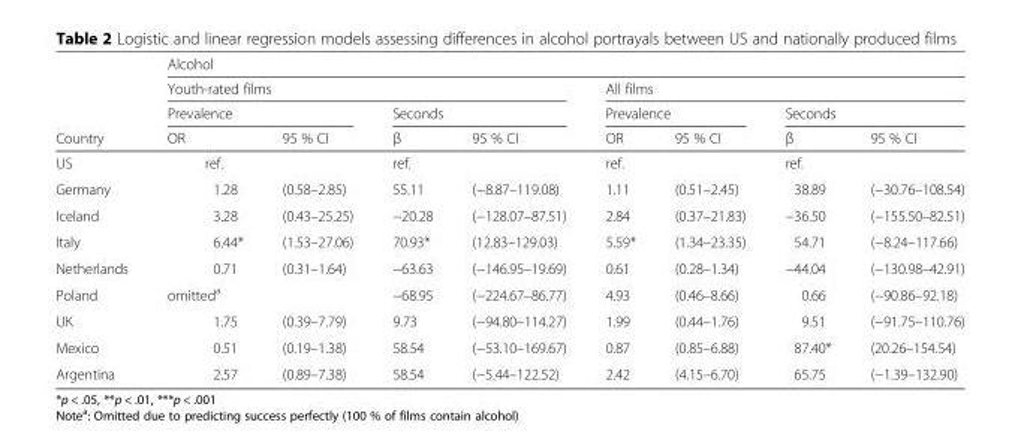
<table><thead><tr><td rowspan="4">Country</td><td colspan="8">Alcohol</td></tr><tr><td colspan="4">Youth-rated films</td><td colspan="4">All films</td></tr><tr><td colspan="2">Prevalence</td><td colspan="2">Seconds</td><td colspan="2">Prevalence</td><td colspan="2">Seconds</td></tr><tr><td>OR</td><td>95 % CI</td><td>β</td><td>95 % CI</td><td>OR</td><td>95 % CI</td><td>β</td><td>95 % CI</td></tr></thead><tbody><tr><td>US</td><td>ref.</td><td></td><td>ref.</td><td></td><td>ref.</td><td></td><td>ref.</td><td></td></tr><tr><td>Germany</td><td>1.28</td><td>(0.58–2.85)</td><td>55.11</td><td>(−8.87–119.08)</td><td>1.11</td><td>(0.51–2.45)</td><td>38.89</td><td>(−30.76–108.54)</td></tr><tr><td>Iceland</td><td>3.28</td><td>(0.43–25.25)</td><td>−20.28</td><td>(−128.07–87.51)</td><td>2.84</td><td>(0.37–21.83)</td><td>−36.50</td><td>(−155.50–82.51)</td></tr><tr><td>Italy</td><td>6.44*</td><td>(1.53–27.06)</td><td>70.93*</td><td>(12.83–129.03)</td><td>5.59*</td><td>(1.34–23.35)</td><td>54.71</td><td>(−8.24–117.66)</td></tr><tr><td>Netherlands</td><td>0.71</td><td>(0.31–1.64)</td><td>−63.63</td><td>(−146.95–19.69)</td><td>0.61</td><td>(0.28–1.34)</td><td>−44.04</td><td>(−130.98–42.91)</td></tr><tr><td>Poland</td><td>omitted<sup>a</sup></td><td></td><td>−68.95</td><td>(−224.67–86.77)</td><td>4.93</td><td>(0.46–8.66)</td><td>0.66</td><td>(−90.86–92.18)</td></tr><tr><td>UK</td><td>1.75</td><td>(0.39–7.79)</td><td>9.73</td><td>(−94.80–114.27)</td><td>1.99</td><td>(0.44–1.76)</td><td>9.51</td><td>(−91.75–110.76)</td></tr><tr><td>Mexico</td><td>0.51</td><td>(0.19–1.38)</td><td>58.54</td><td>(−53.10–169.67)</td><td>0.87</td><td>(0.85–6.88)</td><td>87.40*</td><td>(20.26–154.54)</td></tr><tr><td>Argentina</td><td>2.57</td><td>(0.89–7.38)</td><td>58.54</td><td>(−5.44–122.52)</td><td>2.42</td><td>(4.15–6.70)</td><td>65.75</td><td>(−1.39–132.90)</td></tr></tbody></table>